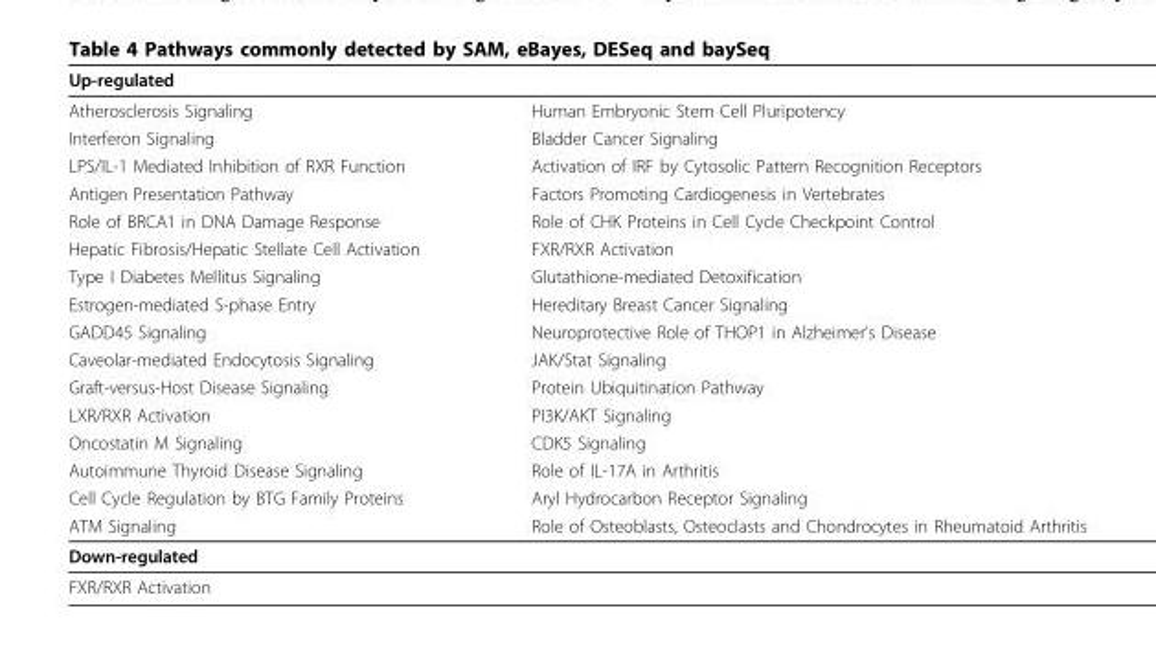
<table><thead><tr><td colspan="2">Up-regulated</td></tr><tr><td>Atherosclerosis Signaling</td><td>Human Embryonic Stem Cell Pluripotency</td></tr></thead><tbody><tr><td>Interferon Signaling</td><td>Bladder Cancer Signaling</td></tr><tr><td>LPS/IL-1 Mediated Inhibition of RXR Function</td><td>Activation of IRF by Cytosolic Pattern Recognition Receptors</td></tr><tr><td>Antigen Presentation Pathway</td><td>Factors Promoting Cardiogenesis in Vertebrates</td></tr><tr><td>Role of BRCA1 in DNA Damage Response</td><td>Role of CHK Proteins in Cell Cycle Checkpoint Control</td></tr><tr><td>Hepatic Fibrosis/Hepatic Stellate Cell Activation</td><td>FXR/RXR Activation</td></tr><tr><td>Type I Diabetes Mellitus Signaling</td><td>Glutathione-mediated Detoxification</td></tr><tr><td>Estrogen-mediated S-phase Entry</td><td>Hereditary Breast Cancer Signaling</td></tr><tr><td>GADD45 Signaling</td><td>Neuroprotective Role of THOP1 in Alzheimer’s Disease</td></tr><tr><td>Caveolar-mediated Endocytosis Signaling</td><td>JAK/Stat Signaling</td></tr><tr><td>Graft-versus-Host Disease Signaling</td><td>Protein Ubiquitination Pathway</td></tr><tr><td>LXR/RXR Activation</td><td>PI3K/AKT Signaling</td></tr><tr><td>Oncostatin M Signaling</td><td>CDK5 Signaling</td></tr><tr><td>Autoimmune Thyroid Disease Signaling</td><td>Role of IL-17A in Arthritis</td></tr><tr><td>Cell Cycle Regulation by BTG Family Proteins</td><td>Aryl Hydrocarbon Receptor Signaling</td></tr><tr><td>ATM Signaling</td><td>Role of Osteoblasts, Osteoclasts and Chondrocytes in Rheumatoid Arthritis</td></tr><tr><td colspan="2">Down-regulated</td></tr><tr><td>FXR/RXR Activation</td><td></td></tr></tbody></table>